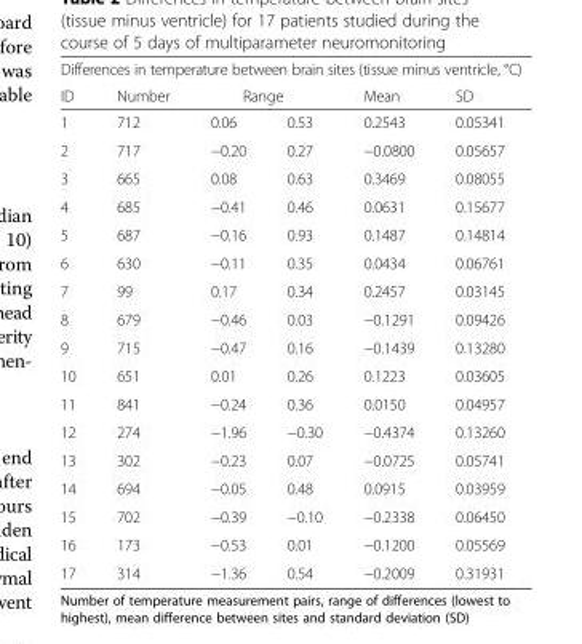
<table><thead><tr><td colspan="6">Differences in temperature between brain sites (tissue minus ventricle, °C)</td></tr><tr><td rowspan="2">ID 1</td><td rowspan="2">Number 712</td><td colspan="2">Range</td><td rowspan="2">Mean 0.2543</td><td rowspan="2">SD 0.05341</td></tr><tr><td>0.06</td><td>0.53</td></tr></thead><tbody><tr><td>2</td><td>717</td><td>−0.20</td><td>0.27</td><td>−0.0800</td><td>0.05657</td></tr><tr><td>3</td><td>665</td><td>0.08</td><td>0.63</td><td>0.3469</td><td>0.08055</td></tr><tr><td>4</td><td>685</td><td>−0.41</td><td>0.46</td><td>0.0631</td><td>0.15677</td></tr><tr><td>5</td><td>687</td><td>−0.16</td><td>0.93</td><td>0.1487</td><td>0.14814</td></tr><tr><td>6</td><td>630</td><td>−0.11</td><td>0.35</td><td>0.0434</td><td>0.06761</td></tr><tr><td>7</td><td>99</td><td>0.17</td><td>0.34</td><td>0.2457</td><td>0.03145</td></tr><tr><td>8</td><td>679</td><td>−0.46</td><td>0.03</td><td>−0.1291</td><td>0.09426</td></tr><tr><td>9</td><td>715</td><td>−0.47</td><td>0.16</td><td>−0.1439</td><td>0.13280</td></tr><tr><td>10</td><td>651</td><td>0.01</td><td>0.26</td><td>0.1223</td><td>0.03605</td></tr><tr><td>11</td><td>841</td><td>−0.24</td><td>0.36</td><td>0.0150</td><td>0.04957</td></tr><tr><td>12</td><td>274</td><td>−1.96</td><td>−0.30</td><td>−0.4374</td><td>0.13260</td></tr><tr><td>13</td><td>302</td><td>−0.23</td><td>0.07</td><td>−0.0725</td><td>0.05741</td></tr><tr><td>14</td><td>694</td><td>−0.05</td><td>0.48</td><td>0.0915</td><td>0.03959</td></tr><tr><td>15</td><td>702</td><td>−0.39</td><td>−0.10</td><td>−0.2338</td><td>0.06450</td></tr><tr><td>16</td><td>173</td><td>−0.53</td><td>0.01</td><td>−0.1200</td><td>0.05569</td></tr><tr><td>17</td><td>314</td><td>−1.36</td><td>0.54</td><td>−0.2009</td><td>0.31931</td></tr></tbody></table>